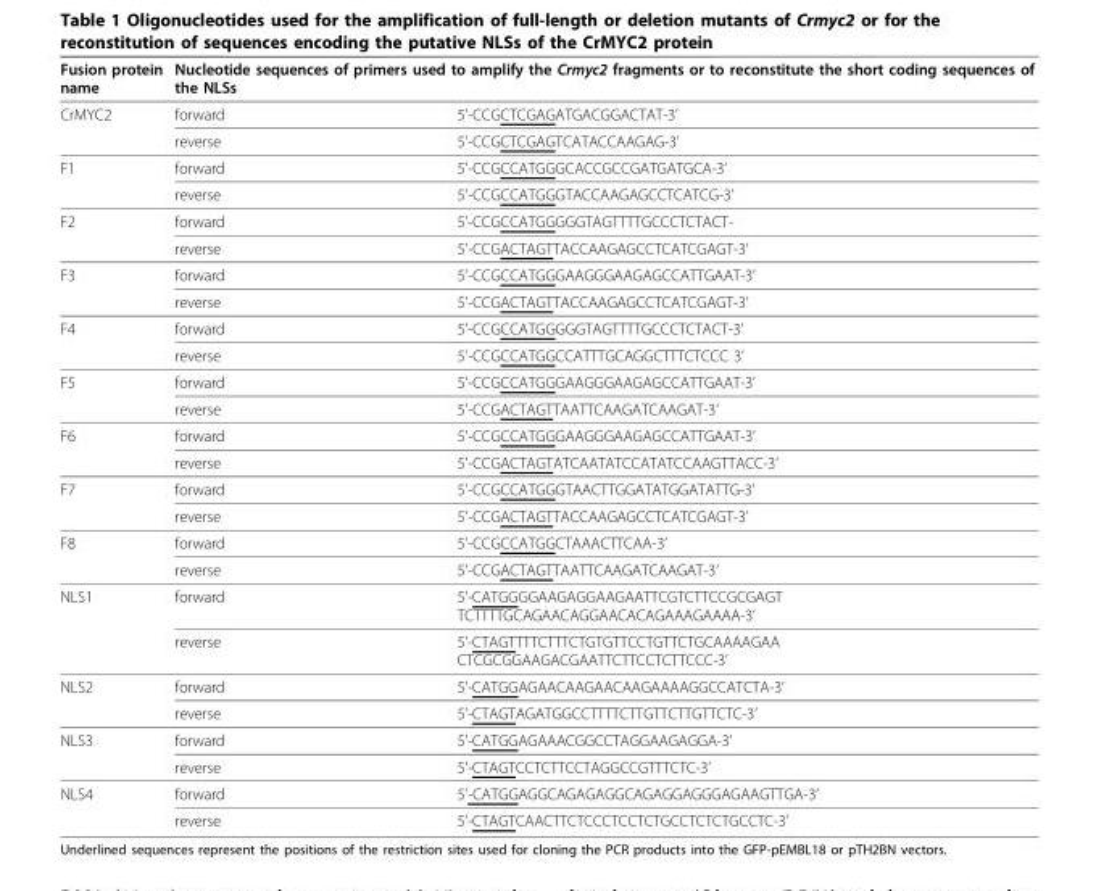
<table><thead><tr><td rowspan="2">Fusion protein name CrMYC2</td><td colspan="2">Nucleotide sequences of primers used to amplify the Crmyc2 fragments or to reconstitute the short coding sequences of the NLSs</td></tr><tr><td>forward</td><td>5’-CCGCTCGAGATGACGGACTAT-3’</td></tr></thead><tbody><tr><td></td><td>reverse</td><td>5’-CCGCTCGAGTCATACCAAGAG-3’</td></tr><tr><td rowspan="2">F1</td><td>forward</td><td>5’-CCGCCATGGGCACCGCCGATGATGCA-3’</td></tr><tr><td>reverse</td><td>5’-CCGCCATGGGTACCAAGAGCCTCATCG-3’</td></tr><tr><td rowspan="2">F2</td><td>forward</td><td>5’-CCGCCATGGGGGTAGTTTTGCCCTCTACT-</td></tr><tr><td>reverse</td><td>5’-CCGACTAGTTACCAAGAGCCTCATCGAGT-3’</td></tr><tr><td rowspan="2">F3</td><td>forward</td><td>5’-CCGCCATGGGAAGGGAAGAGCCATTGAAT-3’</td></tr><tr><td>reverse</td><td>5’-CCGACTAGTTACCAAGAGCCTCATCGAGT-3’</td></tr><tr><td rowspan="2">F4</td><td>forward</td><td>5’-CCGCCATGGGGGTAGTTTTGCCCTCTACT-3’</td></tr><tr><td>reverse</td><td>5’-CCGCCATGGCCATTTGCAGGCTTTCTCCC 3’</td></tr><tr><td rowspan="2">F5</td><td>forward</td><td>5’-CCGCCATGGGAAGGGAAGAGCCATTGAAT-3’</td></tr><tr><td>reverse</td><td>5’-CCGACTAGTTAATTCAAGATCAAGAT-3’</td></tr><tr><td rowspan="2">F6</td><td>forward</td><td>5’-CCGCCATGGGAAGGGAAGAGCCATTGAAT-3’</td></tr><tr><td>reverse</td><td>5’-CCGACTAGTATCAATATCCATATCCAAGTTACC-3’</td></tr><tr><td rowspan="2">F7</td><td>forward</td><td>5’-CCGCCATGGGTAACTTGGATATGGATATTG-3’</td></tr><tr><td>reverse</td><td>5’-CCGACTAGTTACCAAGAGCCTCATCGAGT-3’</td></tr><tr><td rowspan="2">F8</td><td>forward</td><td>5’-CCGCCATGGCTAAACTTCAA-3’</td></tr><tr><td>reverse</td><td>5’-CCGACTAGTTAATTCAAGATCAAGAT-3’</td></tr><tr><td rowspan="2">NLS1</td><td>forward</td><td>5’-CATGGGGAAGAGGAAGAATTCGTCTTCCGCGAGT TCTTTTGCAGAACAGGAACACAGAAAGAAAA-3’</td></tr><tr><td>reverse</td><td>5’-CTAGTTTTCTTTCTGTGTTCCTGTTCTGCAAAAGAA CTCGCGGAAGACGAATTCTTCCTCTTCCC-3’</td></tr><tr><td rowspan="2">NLS2</td><td>forward</td><td>5’-CATGGAGAACAAGAACAAGAAAAGGCCATCTA-3’</td></tr><tr><td>reverse</td><td>5’-CTAGTAGATGGCCTTTTCTTGTTCTTGTTCTC-3’</td></tr><tr><td rowspan="2">NLS3</td><td>forward</td><td>5’-CATGGAGAAACGGCCTAGGAAGAGGA-3’</td></tr><tr><td>reverse</td><td>5’-CTAGTCCTCTTCCTAGGCCGTTTCTC-3’</td></tr><tr><td rowspan="2">NLS4</td><td>forward</td><td>5’-CATGGAGGCAGAGAGGCAGAGGAGGGAGAAGTTGA-3’</td></tr><tr><td>reverse</td><td>5’-CTAGTCAACTTCTCCCTCCTCTGCCTCTCTGCCTC-3’</td></tr></tbody></table>